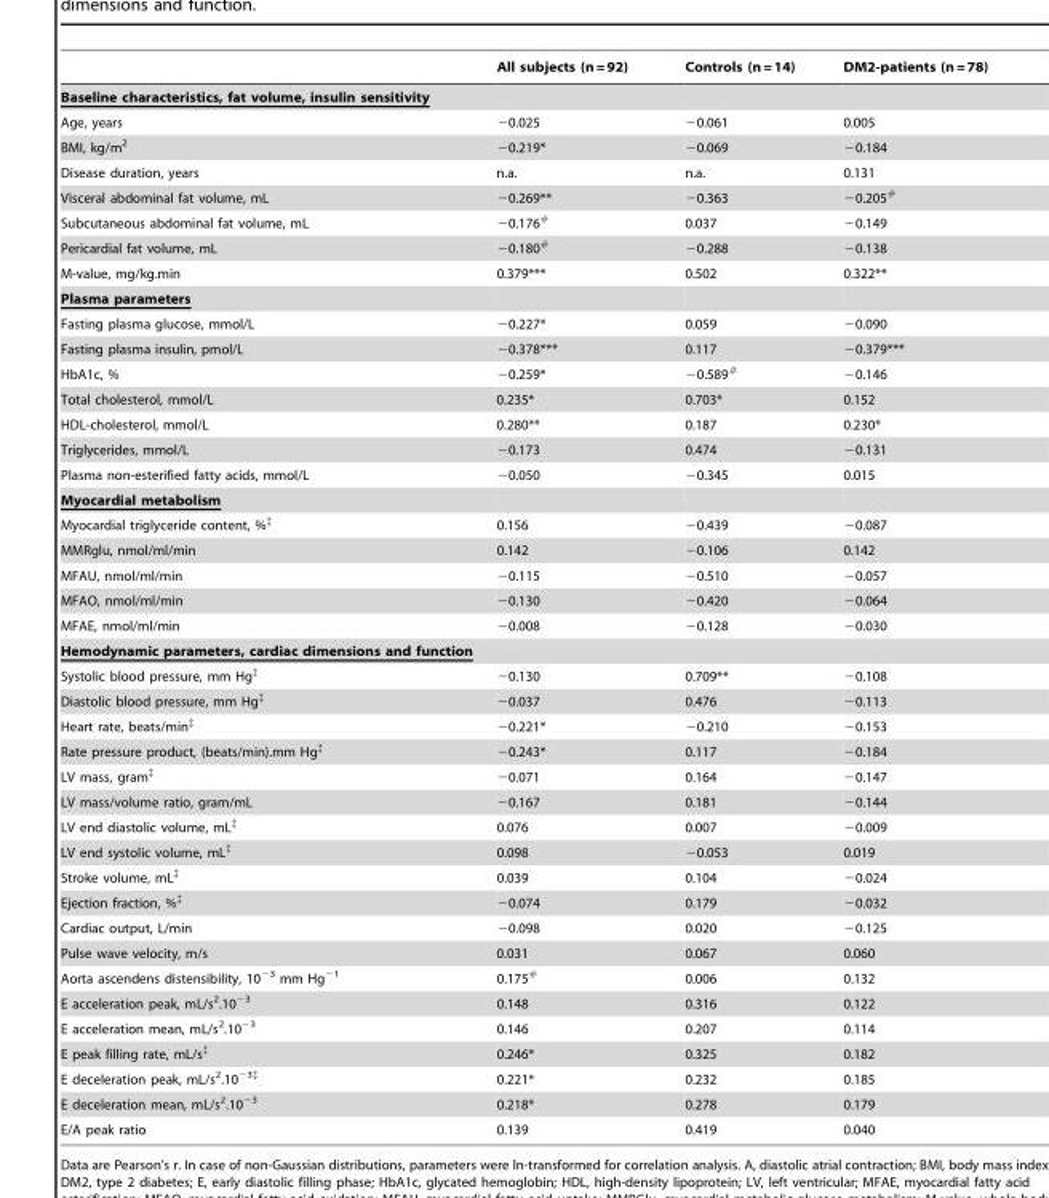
<table><thead><tr><td></td><td>All subjects (n = 92)</td><td>Controls (n = 14)</td><td>DM2-patients (n = 78)</td></tr></thead><tbody><tr><td colspan="4">Baseline characteristics, fat volume, insulin sensitivity</td></tr><tr><td>Age, years</td><td>−0.025</td><td>−0.061</td><td>0.005</td></tr><tr><td>BMI, kg/m<sup>2</sup></td><td>−0.219*</td><td>−0.069</td><td>−0.184</td></tr><tr><td>Disease duration, years</td><td>n.a.</td><td>n.a.</td><td>0.131</td></tr><tr><td>Visceral abdominal fat volume, mL</td><td>−0.269**</td><td>−0.363</td><td>−0.205#</td></tr><tr><td>Subcutaneous abdominal fat volume, mL</td><td>−0.176#</td><td>0.037</td><td>−0.149</td></tr><tr><td>Pericardial fat volume, mL</td><td>−0.180#</td><td>−0.288</td><td>−0.138</td></tr><tr><td>M-value, mg/kg.min</td><td>0.379***</td><td>0.502</td><td>0.322**</td></tr><tr><td colspan="4">Plasma parameters</td></tr><tr><td>Fasting plasma glucose, mmol/L</td><td>−0.227*</td><td>0.059</td><td>−0.090</td></tr><tr><td>Fasting plasma insulin, pmol/L</td><td>−0.378***</td><td>0.117</td><td>−0.379***</td></tr><tr><td>HbA1c, %</td><td>−0.259*</td><td>−0.589#</td><td>−0.146</td></tr><tr><td>Total cholesterol, mmol/L</td><td>0.235*</td><td>0.703*</td><td>0.152</td></tr><tr><td>HDL-cholesterol, mmol/L</td><td>0.280**</td><td>0.187</td><td>0.230*</td></tr><tr><td>Triglycerides, mmol/L</td><td>−0.173</td><td>0.474</td><td>−0.131</td></tr><tr><td>Plasma non-esterified fatty acids, mmol/L</td><td>−0.050</td><td>−0.345</td><td>0.015</td></tr><tr><td colspan="4">Myocardial metabolism</td></tr><tr><td>Myocardial triglyceride content, %<sup>‡</sup></td><td>0.156</td><td>−0.439</td><td>−0.087</td></tr><tr><td>MMRglu, nmol/ml/min</td><td>0.142</td><td>−0.106</td><td>0.142</td></tr><tr><td>MFAU, nmol/ml/min</td><td>−0.115</td><td>−0.510</td><td>−0.057</td></tr><tr><td>MFAO, nmol/ml/min</td><td>−0.130</td><td>−0.420</td><td>−0.064</td></tr><tr><td>MFAE, nmol/ml/min</td><td>−0.008</td><td>−0.128</td><td>−0.030</td></tr><tr><td colspan="4">Hemodynamic parameters, cardiac dimensions and function</td></tr><tr><td>Systolic blood pressure, mm Hg<sup>‡</sup></td><td>−0.130</td><td>0.709**</td><td>−0.108</td></tr><tr><td>Diastolic blood pressure, mm Hg<sup>‡</sup></td><td>−0.037</td><td>0.476</td><td>−0.113</td></tr><tr><td>Heart rate, beats/min<sup>‡</sup></td><td>−0.221*</td><td>−0.210</td><td>−0.153</td></tr><tr><td>Rate pressure product, (beats/min).mm Hg<sup>‡</sup></td><td>−0.243*</td><td>0.117</td><td>−0.184</td></tr><tr><td>LV mass, gram<sup>‡</sup></td><td>−0.071</td><td>0.164</td><td>−0.147</td></tr><tr><td>LV mass/volume ratio, gram/mL</td><td>−0.167</td><td>0.181</td><td>−0.144</td></tr><tr><td>LV end diastolic volume, mL<sup>‡</sup></td><td>0.076</td><td>0.007</td><td>−0.009</td></tr><tr><td>LV end systolic volume, mL<sup>‡</sup></td><td>0.098</td><td>−0.053</td><td>0.019</td></tr><tr><td>Stroke volume, mL<sup>‡</sup></td><td>0.039</td><td>0.104</td><td>−0.024</td></tr><tr><td>Ejection fraction, %<sup>‡</sup></td><td>−0.074</td><td>0.179</td><td>−0.032</td></tr><tr><td>Cardiac output, L/min</td><td>−0.098</td><td>0.020</td><td>−0.125</td></tr><tr><td>Pulse wave velocity, m/s</td><td>0.031</td><td>0.067</td><td>0.060</td></tr><tr><td>Aorta ascendens distensibility, 10<sup>−3</sup> mm Hg<sup>−1</sup></td><td>0.175#</td><td>0.006</td><td>0.132</td></tr><tr><td>E acceleration peak, mL/s<sup>2</sup>.10<sup>−3</sup></td><td>0.148</td><td>0.316</td><td>0.122</td></tr><tr><td>E acceleration mean, mL/s<sup>2</sup>.10<sup>−3</sup></td><td>0.146</td><td>0.207</td><td>0.114</td></tr><tr><td>E peak filling rate, mL/s<sup>‡</sup></td><td>0.246*</td><td>0.325</td><td>0.182</td></tr><tr><td>E deceleration peak, mL/s<sup>2</sup>.10<sup>−3‡</sup></td><td>0.221*</td><td>0.232</td><td>0.185</td></tr><tr><td>E deceleration mean, mL/s<sup>2</sup>.10<sup>−3</sup></td><td>0.218*</td><td>0.278</td><td>0.179</td></tr><tr><td>E/A peak ratio</td><td>0.139</td><td>0.419</td><td>0.040</td></tr></tbody></table>